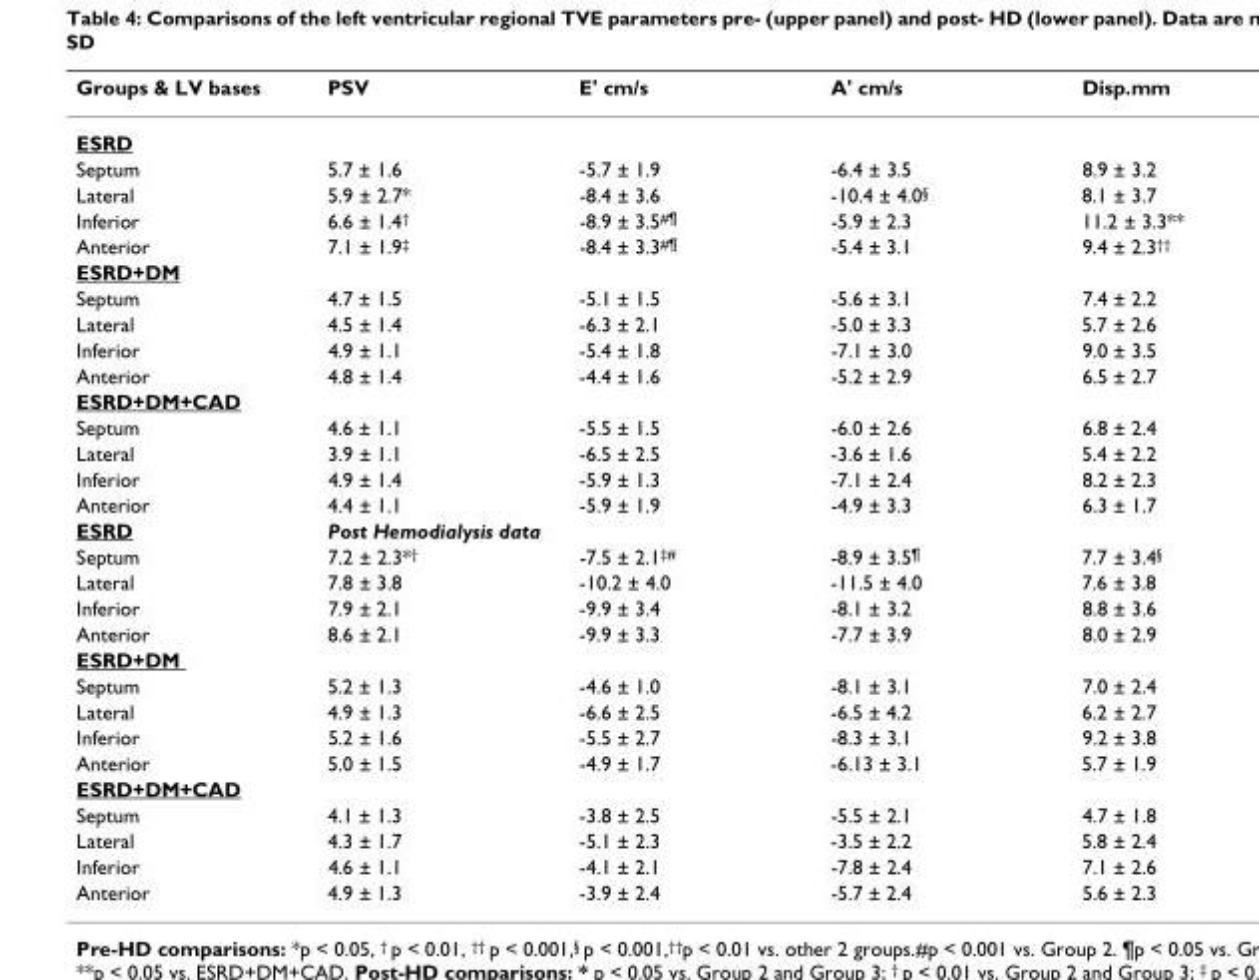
<table><thead><tr><td>Groups &amp; LV bases</td><td>PSV</td><td>E&#x27; cm/s</td><td>A&#x27; cm/s</td><td>Disp.mm</td></tr></thead><tbody><tr><td colspan="5">ESRD</td></tr><tr><td>Septum</td><td>5.7 ± 1.6</td><td>-5.7 ± 1.9</td><td>-6.4 ± 3.5</td><td>8.9 ± 3.2</td></tr><tr><td>Lateral</td><td>5.9 ± 2.7*</td><td>-8.4 ± 3.6</td><td>-10.4 ± 4.0<sup>§</sup></td><td>8.1 ± 3.7</td></tr><tr><td>Inferior</td><td>6.6 ± 1.4<sup>†</sup></td><td>-8.9 ± 3.5<sup>#¶</sup></td><td>-5.9 ± 2.3</td><td>11.2 ± 3.3**</td></tr><tr><td>Anterior</td><td>7.1 ± 1.9<sup>‡</sup></td><td>-8.4 ± 3.3<sup>#¶</sup></td><td>-5.4 ± 3.1</td><td>9.4 ± 2.3<sup>††</sup></td></tr><tr><td colspan="5">ESRD+DM</td></tr><tr><td>Septum</td><td>4.7 ± 1.5</td><td>-5.1 ± 1.5</td><td>-5.6 ± 3.1</td><td>7.4 ± 2.2</td></tr><tr><td>Lateral</td><td>4.5 ± 1.4</td><td>-6.3 ± 2.1</td><td>-5.0 ± 3.3</td><td>5.7 ± 2.6</td></tr><tr><td>Inferior</td><td>4.9 ± 1.1</td><td>-5.4 ± 1.8</td><td>-7.1 ± 3.0</td><td>9.0 ± 3.5</td></tr><tr><td>Anterior</td><td>4.8 ± 1.4</td><td>-4.4 ± 1.6</td><td>-5.2 ± 2.9</td><td>6.5 ± 2.7</td></tr><tr><td colspan="5">ESRD+DM+CAD</td></tr><tr><td>Septum</td><td>4.6 ± 1.1</td><td>-5.5 ± 1.5</td><td>-6.0 ± 2.6</td><td>6.8 ± 2.4</td></tr><tr><td>Lateral</td><td>3.9 ± 1.1</td><td>-6.5 ± 2.5</td><td>-3.6 ± 1.6</td><td>5.4 ± 2.2</td></tr><tr><td>Inferior</td><td>4.9 ± 1.4</td><td>-5.9 ± 1.3</td><td>-7.1 ± 2.4</td><td>8.2 ± 2.3</td></tr><tr><td>Anterior</td><td>4.4 ± 1.1</td><td>-5.9 ± 1.9</td><td>-4.9 ± 3.3</td><td>6.3 ± 1.7</td></tr><tr><td>ESRD</td><td colspan="4">Post Hemodialysis data</td></tr><tr><td>Septum</td><td>7.2 ± 2.3*<sup>†</sup></td><td>-7.5 ± 2.1<sup>‡#</sup></td><td>-8.9 ± 3.5<sup>¶</sup></td><td>7.7 ± 3.4<sup>§</sup></td></tr><tr><td>Lateral</td><td>7.8 ± 3.8</td><td>-10.2 ± 4.0</td><td>-11.5 ± 4.0</td><td>7.6 ± 3.8</td></tr><tr><td>Inferior</td><td>7.9 ± 2.1</td><td>-9.9 ± 3.4</td><td>-8.1 ± 3.2</td><td>8.8 ± 3.6</td></tr><tr><td>Anterior</td><td>8.6 ± 2.1</td><td>-9.9 ± 3.3</td><td>-7.7 ± 3.9</td><td>8.0 ± 2.9</td></tr><tr><td colspan="5">ESRD+DM</td></tr><tr><td>Septum</td><td>5.2 ± 1.3</td><td>-4.6 ± 1.0</td><td>-8.1 ± 3.1</td><td>7.0 ± 2.4</td></tr><tr><td>Lateral</td><td>4.9 ± 1.3</td><td>-6.6 ± 2.5</td><td>-6.5 ± 4.2</td><td>6.2 ± 2.7</td></tr><tr><td>Inferior</td><td>5.2 ± 1.6</td><td>-5.5 ± 2.7</td><td>-8.3 ± 3.1</td><td>9.2 ± 3.8</td></tr><tr><td>Anterior</td><td>5.0 ± 1.5</td><td>-4.9 ± 1.7</td><td>-6.13 ± 3.1</td><td>5.7 ± 1.9</td></tr><tr><td colspan="5">ESRD+DM+CAD</td></tr><tr><td>Septum</td><td>4.1 ± 1.3</td><td>-3.8 ± 2.5</td><td>-5.5 ± 2.1</td><td>4.7 ± 1.8</td></tr><tr><td>Lateral</td><td>4.3 ± 1.7</td><td>-5.1 ± 2.3</td><td>-3.5 ± 2.2</td><td>5.8 ± 2.4</td></tr><tr><td>Inferior</td><td>4.6 ± 1.1</td><td>-4.1 ± 2.1</td><td>-7.8 ± 2.4</td><td>7.1 ± 2.6</td></tr><tr><td>Anterior</td><td>4.9 ± 1.3</td><td>-3.9 ± 2.4</td><td>-5.7 ± 2.4</td><td>5.6 ± 2.3</td></tr></tbody></table>